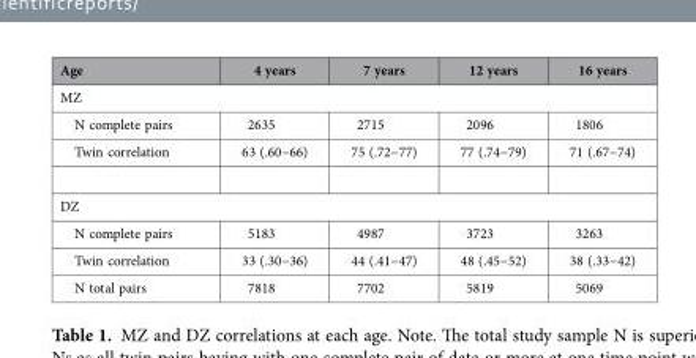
<table><thead><tr><td>Age</td><td>4 years</td><td>7 years</td><td>12 years</td><td>16 years</td></tr></thead><tbody><tr><td colspan="5">MZ</td></tr><tr><td>N complete pairs</td><td>2635</td><td>2715</td><td>2096</td><td>1806</td></tr><tr><td>Twin correlation</td><td>63 (.60−66)</td><td>75 (.72−77)</td><td>77 (.74−79)</td><td>71 (.67−74)</td></tr><tr><td colspan="5">DZ</td></tr><tr><td>N complete pairs</td><td>5183</td><td>4987</td><td>3723</td><td>3263</td></tr><tr><td>Twin correlation</td><td>33 (.30−36)</td><td>44 (.41−47)</td><td>48 (.45−52)</td><td>38 (.33−42)</td></tr><tr><td>N total pairs</td><td>7818</td><td>7702</td><td>5819</td><td>5069</td></tr></tbody></table>